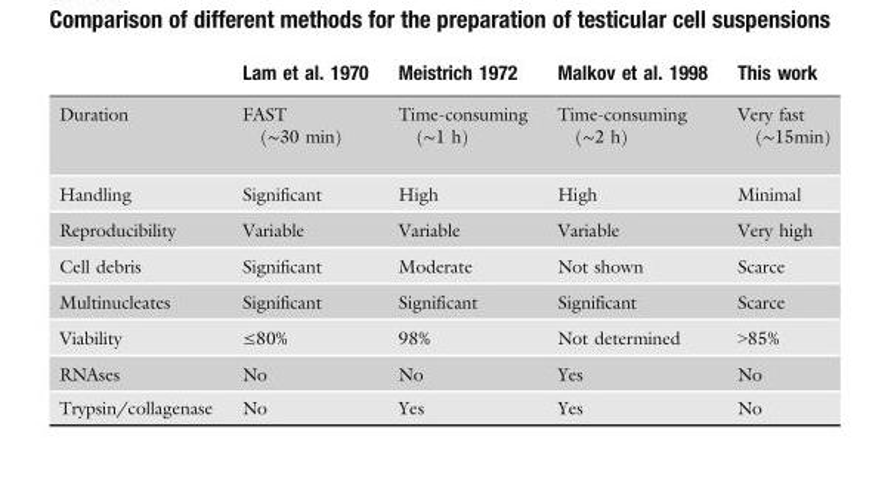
<table><thead><tr><td></td><td>Lam et al. 1970</td><td>Meistrich 1972</td><td>Malkov et al. 1998</td><td>This work</td></tr></thead><tbody><tr><td>Duration</td><td>FAST (∼30 min)</td><td>Time-consuming (∼1 h)</td><td>Time-consuming (∼2 h)</td><td>Very fast (∼15min)</td></tr><tr><td>Handling</td><td>Significant</td><td>High</td><td>High</td><td>Minimal</td></tr><tr><td>Reproducibility</td><td>Variable</td><td>Variable</td><td>Variable</td><td>Very high</td></tr><tr><td>Cell debris</td><td>Significant</td><td>Moderate</td><td>Not shown</td><td>Scarce</td></tr><tr><td>Multinucleates</td><td>Significant</td><td>Significant</td><td>Significant</td><td>Scarce</td></tr><tr><td>Viability</td><td>≤80%</td><td>98%</td><td>Not determined</td><td>&gt;85%</td></tr><tr><td>RNAses</td><td>No</td><td>No</td><td>Yes</td><td>No</td></tr><tr><td>Trypsin/collagenase</td><td>No</td><td>Yes</td><td>Yes</td><td>No</td></tr></tbody></table>